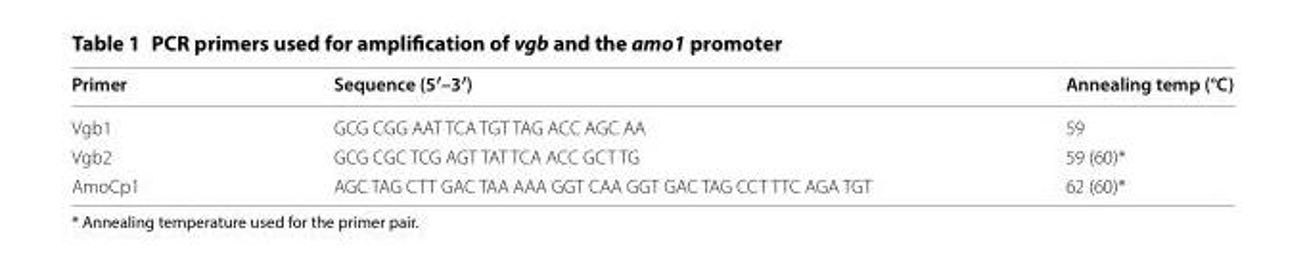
<table><thead><tr><td>Primer</td><td>Sequence (5′–3′)</td><td>Annealing temp (°C)</td></tr></thead><tbody><tr><td>Vgb1</td><td>GCG CGG AAT TCA TGT TAG ACC AGC AA</td><td>59</td></tr><tr><td>Vgb2</td><td>GCG CGC TCG AGT TAT TCA ACC GCT TG</td><td>59 (60)*</td></tr><tr><td>AmoCp1</td><td>AGC TAG CTT GAC TAA AAA GGT CAA GGT GAC TAG CCT TTC AGA TGT</td><td>62 (60)*</td></tr></tbody></table>